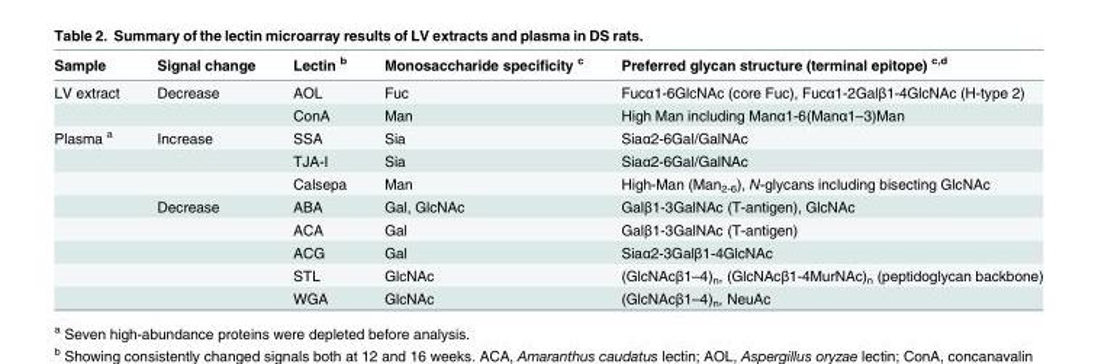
<table><thead><tr><td>Sample</td><td>Signal change</td><td>Lectin <sup>b</sup></td><td>Monosaccharide specificity <sup>c</sup></td><td>Preferred glycan structure (terminal epitope) <sup>c,d</sup></td></tr></thead><tbody><tr><td rowspan="2">LV extract</td><td>Decrease</td><td>AOL</td><td>Fuc</td><td>Fucα1-6GlcNAc (core Fuc), Fucα1-2Galβ1-4GlcNAc (H-type 2)</td></tr><tr><td></td><td>ConA</td><td>Man</td><td>High Man including Manα1-6(Manα1–3)Man</td></tr><tr><td rowspan="8">Plasma <sup>a</sup></td><td>Increase</td><td>SSA</td><td>Sia</td><td>Siaα2-6Gal/GalNAc</td></tr><tr><td></td><td>TJA-I</td><td>Sia</td><td>Siaα2-6Gal/GalNAc</td></tr><tr><td></td><td>Calsepa</td><td>Man</td><td>High-Man (Man<sub>2-6</sub>), N-glycans including bisecting GlcNAc</td></tr><tr><td>Decrease</td><td>ABA</td><td>Gal, GlcNAc</td><td>Galβ1-3GalNAc (T-antigen), GlcNAc</td></tr><tr><td></td><td>ACA</td><td>Gal</td><td>Galβ1-3GalNAc (T-antigen)</td></tr><tr><td></td><td>ACG</td><td>Gal</td><td>Siaα2-3Galβ1-4GlcNAc</td></tr><tr><td></td><td>STL</td><td>GlcNAc</td><td>(GlcNAcβ1–4)<sub>n</sub>, (GlcNAcβ1-4MurNAc)<sub>n</sub> (peptidoglycan backbone)</td></tr><tr><td></td><td>WGA</td><td>GlcNAc</td><td>(GlcNAcβ1–4)<sub>n</sub>, NeuAc</td></tr></tbody></table>